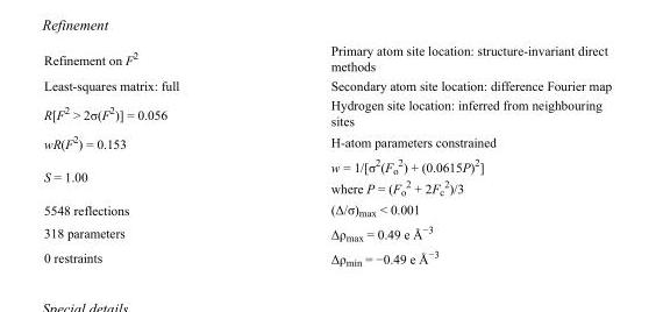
<table><tbody><tr><td>Refinement on F<sup>2</sup></td><td>Primary atom site location: structure-invariant direct methods</td></tr><tr><td>Least-squares matrix: full</td><td>Secondary atom site location: difference Fourier map</td></tr><tr><td>R[F<sup>2</sup> &gt; 2σ(F<sup>2</sup>)] = 0.056</td><td>Hydrogen site location: inferred from neighbouring sites</td></tr><tr><td>wR(F<sup>2</sup>) = 0.153</td><td>H-atom parameters constrained</td></tr><tr><td>S = 1.00</td><td>w = 1/[σ<sup>2</sup>(F<sub>o</sub> <sup>2</sup>) + (0.0615P)<sup>2</sup>] where P = (F<sub>o</sub> <sup>2</sup> + 2F<sub>c</sub> <sup>2</sup>)/3</td></tr><tr><td>5548 reflections</td><td>(Δ/σ)<sub>max</sub> &lt; 0.001</td></tr><tr><td>318 parameters</td><td>Δρ<sub>max</sub> = 0.49 e Å<sup>−3</sup></td></tr><tr><td>0 restraints</td><td>Δρ<sub>min</sub> = −0.49 e Å<sup>−3</sup></td></tr></tbody></table>